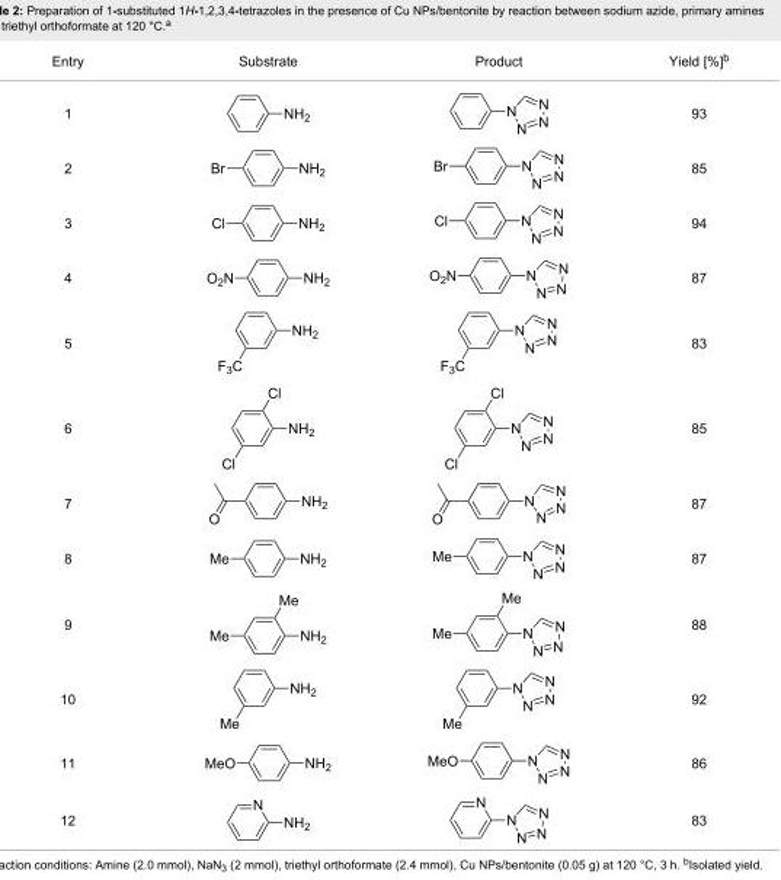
<table><tbody><tr><td>Entry</td><td>Substrate</td><td>Product</td><td>Yield [%]<sup>b</sup></td></tr><tr><td>1</td><td></td><td></td><td>93</td></tr><tr><td>2</td><td></td><td></td><td>85</td></tr><tr><td>3</td><td></td><td></td><td>94</td></tr><tr><td>4</td><td></td><td></td><td>87</td></tr><tr><td>5</td><td></td><td></td><td>83</td></tr><tr><td>6</td><td></td><td></td><td>85</td></tr><tr><td>7</td><td></td><td></td><td>87</td></tr><tr><td>8</td><td></td><td></td><td>87</td></tr><tr><td>9</td><td></td><td></td><td>88</td></tr><tr><td>10</td><td></td><td></td><td>92</td></tr><tr><td>11</td><td></td><td></td><td>86</td></tr><tr><td>12</td><td></td><td></td><td>83</td></tr></tbody></table>